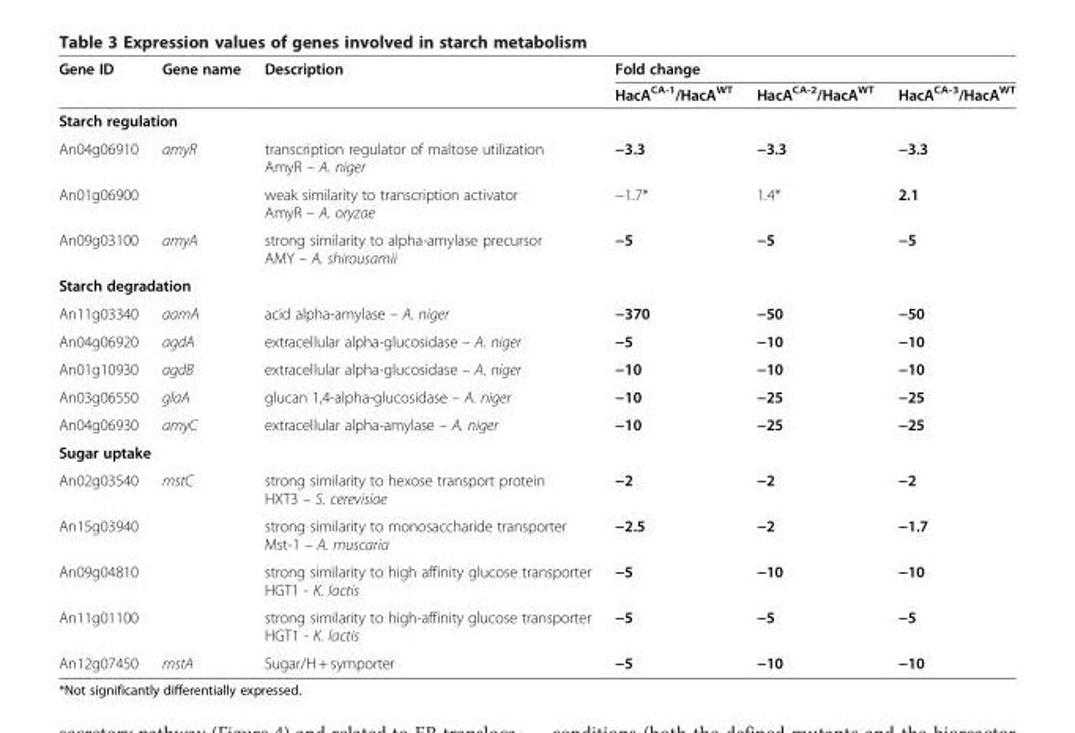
<table><thead><tr><td rowspan="2">Gene ID</td><td rowspan="2">Gene name</td><td rowspan="2">Description</td><td colspan="3">Fold change</td></tr><tr><td>HacA<sup>CA-1</sup>/HacA<sup>WT</sup></td><td>HacA<sup>CA-2</sup>/HacA<sup>WT</sup></td><td>HacA<sup>CA-3</sup>/HacA<sup>WT</sup></td></tr></thead><tbody><tr><td colspan="6">Starch regulation</td></tr><tr><td>An04g06910</td><td>amyR</td><td>transcription regulator of maltose utilization AmyR – A. niger</td><td>−3.3</td><td>−3.3</td><td>−3.3</td></tr><tr><td>An01g06900</td><td></td><td>weak similarity to transcription activator AmyR – A. oryzae</td><td>−1.7*</td><td>1.4*</td><td>2.1</td></tr><tr><td>An09g03100</td><td>amyA</td><td>strong similarity to alpha-amylase precursor AMY – A. shirousamii</td><td>−5</td><td>−5</td><td>−5</td></tr><tr><td colspan="6">Starch degradation</td></tr><tr><td>An11g03340</td><td>aamA</td><td>acid alpha-amylase – A. niger</td><td>−370</td><td>−50</td><td>−50</td></tr><tr><td>An04g06920</td><td>agdA</td><td>extracellular alpha-glucosidase – A. niger</td><td>−5</td><td>−10</td><td>−10</td></tr><tr><td>An01g10930</td><td>agdB</td><td>extracellular alpha-glucosidase – A. niger</td><td>−10</td><td>−10</td><td>−10</td></tr><tr><td>An03g06550</td><td>glaA</td><td>glucan 1,4-alpha-glucosidase – A. niger</td><td>−10</td><td>−25</td><td>−25</td></tr><tr><td>An04g06930</td><td>amyC</td><td>extracellular alpha-amylase – A. niger</td><td>−10</td><td>−25</td><td>−25</td></tr><tr><td colspan="6">Sugar uptake</td></tr><tr><td>An02g03540</td><td>mstC</td><td>strong similarity to hexose transport protein HXT3 – S. cerevisiae</td><td>−2</td><td>−2</td><td>−2</td></tr><tr><td>An15g03940</td><td></td><td>strong similarity to monosaccharide transporter Mst-1 – A. muscaria</td><td>−2.5</td><td>−2</td><td>−1.7</td></tr><tr><td>An09g04810</td><td></td><td>strong similarity to high affinity glucose transporter HGT1 - K. lactis</td><td>−5</td><td>−10</td><td>−10</td></tr><tr><td>An11g01100</td><td></td><td>strong similarity to high-affinity glucose transporter HGT1 - K. lactis</td><td>−5</td><td>−5</td><td>−5</td></tr><tr><td>An12g07450</td><td>mstA</td><td>Sugar/H + symporter</td><td>−5</td><td>−10</td><td>−10</td></tr></tbody></table>